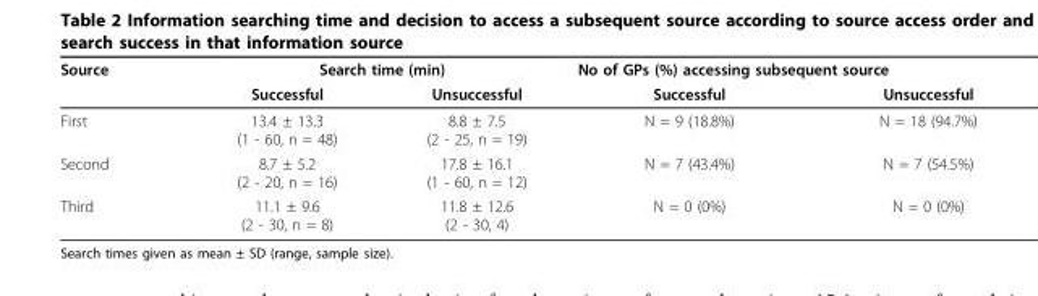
<table><thead><tr><td rowspan="2">Source</td><td colspan="2">Search time (min)</td><td colspan="2">No of GPs (%) accessing subsequent source</td></tr><tr><td>Successful</td><td>Unsuccessful</td><td>Successful</td><td>Unsuccessful</td></tr></thead><tbody><tr><td>First</td><td>13.4 ± 13.3 (1 - 60, n = 48)</td><td>8.8 ± 7.5 (2 - 25, n = 19)</td><td>N = 9 (18.8%)</td><td>N = 18 (94.7%)</td></tr><tr><td>Second</td><td>8.7 ± 5.2 (2 - 20, n = 16)</td><td>17.8 ± 16.1 (1 - 60, n = 12)</td><td>N = 7 (43.4%)</td><td>N = 7 (54.5%)</td></tr><tr><td>Third</td><td>11.1 ± 9.6 (2 - 30, n = 8)</td><td>11.8 ± 12.6 (2 - 30, 4)</td><td>N = 0 (0%)</td><td>N = 0 (0%)</td></tr></tbody></table>